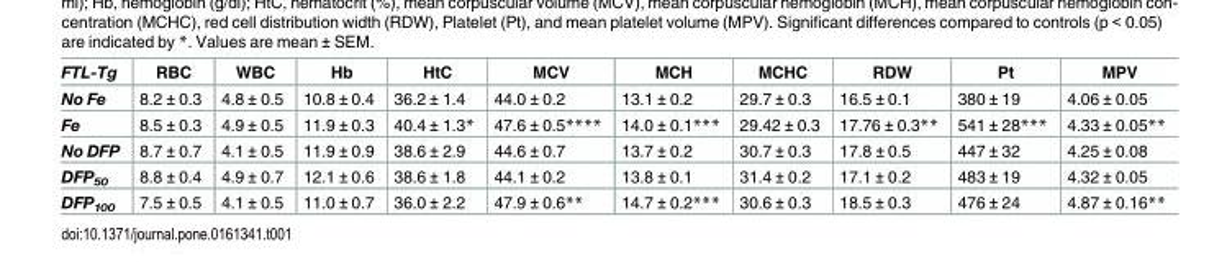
<table><thead><tr><td>FTL-Tg</td><td>RBC</td><td>WBC</td><td>Hb</td><td>HtC</td><td>MCV</td><td>MCH</td><td>MCHC</td><td>RDW</td><td>Pt</td><td>MPV</td></tr></thead><tbody><tr><td>No Fe</td><td>8.2 ± 0.3</td><td>4.8 ± 0.5</td><td>10.8 ± 0.4</td><td>36.2 ± 1.4</td><td>44.0 ± 0.2</td><td>13.1 ± 0.2</td><td>29.7 ± 0.3</td><td>16.5 ± 0.1</td><td>380 ± 19</td><td>4.06 ± 0.05</td></tr><tr><td>Fe</td><td>8.5 ± 0.3</td><td>4.9 ± 0.5</td><td>11.9 ± 0.3</td><td>40.4 ± 1.3*</td><td>47.6 ± 0.5****</td><td>14.0 ± 0.1***</td><td>29.42 ± 0.3</td><td>17.76 ± 0.3**</td><td>541 ± 28***</td><td>4.33 ± 0.05**</td></tr><tr><td>No DFP</td><td>8.7 ± 0.7</td><td>4.1 ± 0.5</td><td>11.9 ± 0.9</td><td>38.6 ± 2.9</td><td>44.6 ± 0.7</td><td>13.7 ± 0.2</td><td>30.7 ± 0.3</td><td>17.8 ± 0.5</td><td>447 ± 32</td><td>4.25 ± 0.08</td></tr><tr><td>DFP<sub>50</sub></td><td>8.8 ± 0.4</td><td>4.9 ± 0.7</td><td>12.1 ± 0.6</td><td>38.6 ± 1.8</td><td>44.1 ± 0.2</td><td>13.8 ± 0.1</td><td>31.4 ± 0.2</td><td>17.1 ± 0.2</td><td>483 ± 19</td><td>4.32 ± 0.05</td></tr><tr><td>DFP<sub>100</sub></td><td>7.5 ± 0.5</td><td>4.1 ± 0.5</td><td>11.0 ± 0.7</td><td>36.0 ± 2.2</td><td>47.9 ± 0.6**</td><td>14.7 ± 0.2***</td><td>30.6 ± 0.3</td><td>18.5 ± 0.3</td><td>476 ± 24</td><td>4.87 ± 0.16**</td></tr></tbody></table>